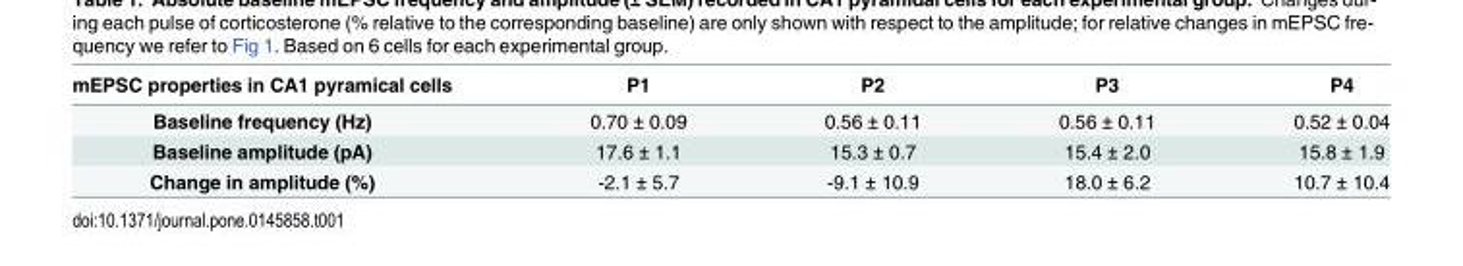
<table><thead><tr><td>mEPSC properties in CA1 pyramical cells</td><td>P1</td><td>P2</td><td>P3</td><td>P4</td></tr></thead><tbody><tr><td>Baseline frequency (Hz)</td><td>0.70 ± 0.09</td><td>0.56 ± 0.11</td><td>0.56 ± 0.11</td><td>0.52 ± 0.04</td></tr><tr><td>Baseline amplitude (pA)</td><td>17.6 ± 1.1</td><td>15.3 ± 0.7</td><td>15.4 ± 2.0</td><td>15.8 ± 1.9</td></tr><tr><td>Change in amplitude (%)</td><td>-2.1 ± 5.7</td><td>-9.1 ± 10.9</td><td>18.0 ± 6.2</td><td>10.7 ± 10.4</td></tr></tbody></table>